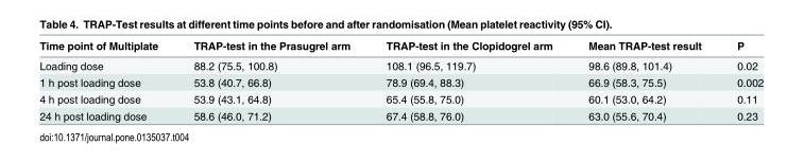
<table><thead><tr><td>Time point of Multiplate</td><td>TRAP-test in the Prasugrel arm</td><td>TRAP-test in the Clopidogrel arm</td><td>Mean TRAP-test result</td><td>P</td></tr></thead><tbody><tr><td>Loading dose</td><td>88.2 (75.5, 100.8)</td><td>108.1 (96.5, 119.7)</td><td>98.6 (89.8, 101.4)</td><td>0.02</td></tr><tr><td>1 h post loading dose</td><td>53.8 (40.7, 66.8)</td><td>78.9 (69.4, 88.3)</td><td>66.9 (58.3, 75.5)</td><td>0.002</td></tr><tr><td>4 h post loading dose</td><td>53.9 (43.1, 64.8)</td><td>65.4 (55.8, 75.0)</td><td>60.1 (53.0, 64.2)</td><td>0.11</td></tr><tr><td>24 h post loading dose</td><td>58.6 (46.0, 71.2)</td><td>67.4 (58.8, 76.0)</td><td>63.0 (55.6, 70.4)</td><td>0.23</td></tr></tbody></table>